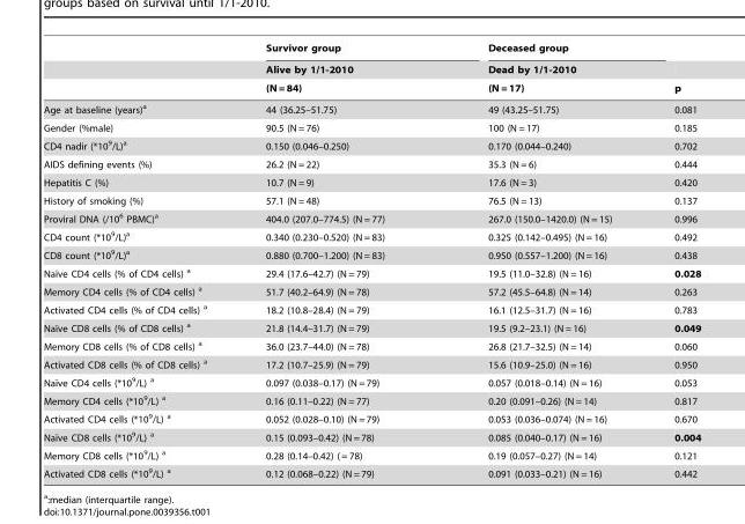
<table><thead><tr><td rowspan="3"></td><td rowspan="3">Survivor group Alive by 1/1-2010 (N = 84)</td><td rowspan="3">Deceased group Dead by 1/1-2010 (N = 17)</td><td rowspan="3">p</td></tr><tr></tr><tr></tr></thead><tbody><tr><td>Age at baseline (years)<sup>a</sup></td><td>44 (36.25–51.75)</td><td>49 (43.25–51.75)</td><td>0.081</td></tr><tr><td>Gender (%male)</td><td>90.5 (N = 76)</td><td>100 (N = 17)</td><td>0.185</td></tr><tr><td>CD4 nadir (*10<sup>9</sup>/L)<sup>a</sup></td><td>0.150 (0.046–0.250)</td><td>0.170 (0.044–0.240)</td><td>0.702</td></tr><tr><td>AIDS defining events (%)</td><td>26.2 (N = 22)</td><td>35.3 (N = 6)</td><td>0.444</td></tr><tr><td>Hepatitis C (%)</td><td>10.7 (N = 9)</td><td>17.6 (N = 3)</td><td>0.420</td></tr><tr><td>History of smoking (%)</td><td>57.1 (N = 48)</td><td>76.5 (N = 13)</td><td>0.137</td></tr><tr><td>Proviral DNA (/10<sup>6</sup> PBMC)<sup>a</sup></td><td>404.0 (207.0–774.5) (N = 77)</td><td>267.0 (150.0–1420.0) (N = 15)</td><td>0.996</td></tr><tr><td>CD4 count (*10<sup>9</sup>/L)<sup>a</sup></td><td>0.340 (0.230–0.520) (N = 83)</td><td>0.325 (0.142–0.495) (N = 16)</td><td>0.492</td></tr><tr><td>CD8 count (*10<sup>9</sup>/L)<sup>a</sup></td><td>0.880 (0.700–1.200) (N = 83)</td><td>0.950 (0.557–1.200) (N = 16)</td><td>0.438</td></tr><tr><td>Naı¨ve CD4 cells (% of CD4 cells) a</td><td>29.4 (17.6–42.7) (N = 79)</td><td>19.5 (11.0–32.8) (N = 16)</td><td>0.028</td></tr><tr><td>Memory CD4 cells (% of CD4 cells) a</td><td>51.7 (40.2–64.9) (N = 78)</td><td>57.2 (45.5–64.8) (N = 14)</td><td>0.263</td></tr><tr><td>Activated CD4 cells (% of CD4 cells) a</td><td>18.2 (10.8–28.4) (N = 79)</td><td>16.1 (12.5–31.7) (N = 16)</td><td>0.783</td></tr><tr><td>Naı¨ve CD8 cells (% of CD8 cells) a</td><td>21.8 (14.4–31.7) (N = 79)</td><td>19.5 (9.2–23.1) (N = 16)</td><td>0.049</td></tr><tr><td>Memory CD8 cells (% of CD8 cells) a</td><td>36.0 (23.7–44.0) (N = 78)</td><td>26.8 (21.7–32.5) (N = 14)</td><td>0.060</td></tr><tr><td>Activated CD8 cells (% of CD8 cells) a</td><td>17.2 (10.7–25.9) (N = 79)</td><td>15.6 (10.9–25.0) (N = 16)</td><td>0.950</td></tr><tr><td>Naı¨ve CD4 cells (*109/L) a</td><td>0.097 (0.038–0.17) (N = 79)</td><td>0.057 (0.018–0.14) (N = 16)</td><td>0.053</td></tr><tr><td>Memory CD4 cells (*10<sup>9</sup>/L) a</td><td>0.16 (0.11–0.22) (N = 77)</td><td>0.20 (0.091–0.26) (N = 14)</td><td>0.817</td></tr><tr><td>Activated CD4 cells (*10<sup>9</sup>/L) a</td><td>0.052 (0.028–0.10) (N = 79)</td><td>0.053 (0.036–0.074) (N = 16)</td><td>0.670</td></tr><tr><td>Naı¨ve CD8 cells (*109/L) a</td><td>0.15 (0.093–0.42) (N = 78)</td><td>0.085 (0.040–0.17) (N = 16)</td><td>0.004</td></tr><tr><td>Memory CD8 cells (*10<sup>9</sup>/L) a</td><td>0.28 (0.14–0.42) ( = 78)</td><td>0.19 (0.057–0.27) (N = 14)</td><td>0.121</td></tr><tr><td>Activated CD8 cells (*10<sup>9</sup>/L) a</td><td>0.12 (0.068–0.22) (N = 79)</td><td>0.091 (0.033–0.21) (N = 16)</td><td>0.442</td></tr></tbody></table>